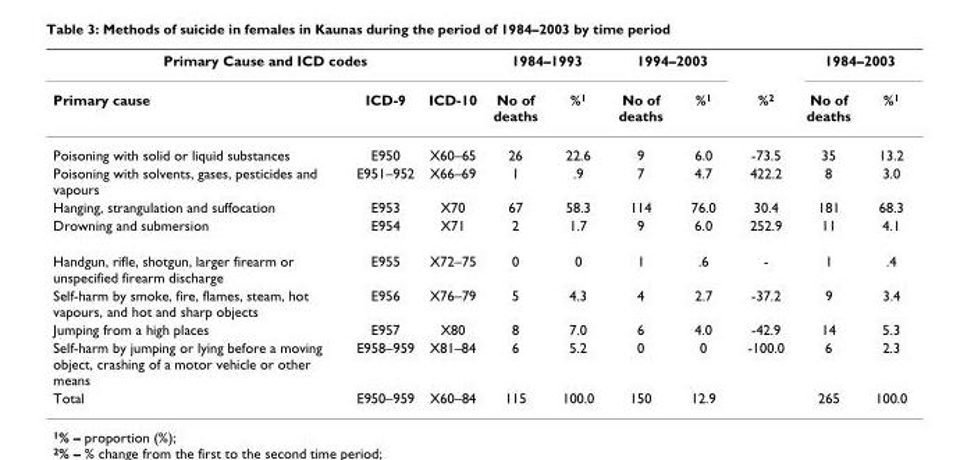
<table><thead><tr><td colspan="3">Primary Cause and ICD codes</td><td colspan="2">1984–1993</td><td colspan="2">1994–2003</td><td rowspan="2">%2</td><td colspan="2">1984–2003</td></tr><tr><td>Primary cause</td><td>ICD-9</td><td>ICD-10</td><td>No of deaths</td><td>%1</td><td>No of deaths</td><td>%1</td><td>No of deaths</td><td>%1</td></tr></thead><tbody><tr><td>Poisoning with solid or liquid substances</td><td>E950</td><td>X60–65</td><td>26</td><td>22.6</td><td>9</td><td>6.0</td><td>-73.5</td><td>35</td><td>13.2</td></tr><tr><td>Poisoning with solvents, gases, pesticides and vapours</td><td>E951–952</td><td>X66–69</td><td>1</td><td>.9</td><td>7</td><td>4.7</td><td>422.2</td><td>8</td><td>3.0</td></tr><tr><td>Hanging, strangulation and suffocation</td><td>E953</td><td>X70</td><td>67</td><td>58.3</td><td>114</td><td>76.0</td><td>30.4</td><td>181</td><td>68.3</td></tr><tr><td>Drowning and submersion</td><td>E954</td><td>X71</td><td>2</td><td>1.7</td><td>9</td><td>6.0</td><td>252.9</td><td>11</td><td>4.1</td></tr><tr><td>Handgun, rifle, shotgun, larger firearm or unspecified firearm discharge</td><td>E955</td><td>X72–75</td><td>0</td><td>0</td><td>1</td><td>.6</td><td>-</td><td>1</td><td>.4</td></tr><tr><td>Self-harm by smoke, fire, flames, steam, hot vapours, and hot and sharp objects</td><td>E956</td><td>X76–79</td><td>5</td><td>4.3</td><td>4</td><td>2.7</td><td>-37.2</td><td>9</td><td>3.4</td></tr><tr><td>Jumping from a high places</td><td>E957</td><td>X80</td><td>8</td><td>7.0</td><td>6</td><td>4.0</td><td>-42.9</td><td>14</td><td>5.3</td></tr><tr><td>Self-harm by jumping or lying before a moving object, crashing of a motor vehicle or other means</td><td>E958–959</td><td>X81–84</td><td>6</td><td>5.2</td><td>0</td><td>0</td><td>-100.0</td><td>6</td><td>2.3</td></tr><tr><td>Total</td><td>E950–959</td><td>X60–84</td><td>115</td><td>100.0</td><td>150</td><td>12.9</td><td></td><td>265</td><td>100.0</td></tr></tbody></table>